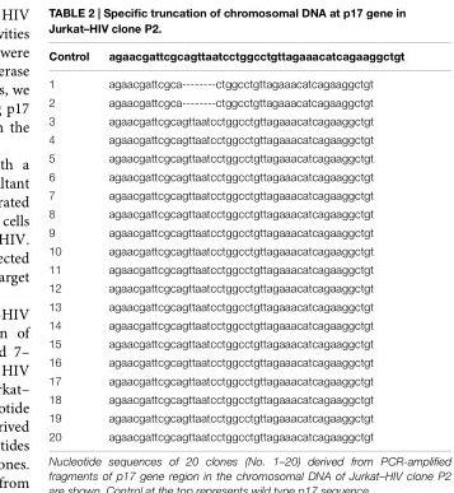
<table><thead><tr><td>Control</td><td>agaacgattcgcagttaatcctggcctgttagaaacatcagaaggctgt</td></tr></thead><tbody><tr><td>1</td><td>agaacgattcgca--------ctggcctgttagaaacatcagaaggctgt</td></tr><tr><td>2</td><td>agaacgattcgca--------ctggcctgttagaaacatcagaaggctgt</td></tr><tr><td>3</td><td>agaacgattcgcagttaatcctggcctgttagaaacatcagaaggctgt</td></tr><tr><td>4</td><td>agaacgattcgcagttaatcctggcctgttagaaacatcagaaggctgt</td></tr><tr><td>5</td><td>agaacgattcgcagttaatcctggcctgttagaaacatcagaaggctgt</td></tr><tr><td>6</td><td>agaacgattcgcagttaatcctggcctgttagaaacatcagaaggctgt</td></tr><tr><td>7</td><td>agaacgattcgcagttaatcctggcctgttagaaacatcagaaggctgt</td></tr><tr><td>8</td><td>agaacgattcgcagttaatcctggcctgttagaaacatcagaaggctgt</td></tr><tr><td>9</td><td>agaacgattcgcagttaatcctggcctgttagaaacatcagaaggctgt</td></tr><tr><td>10</td><td>agaacgattcgcagttaatcctggcctgttagaaacatcagaaggctgt</td></tr><tr><td>11</td><td>agaacgattcgcagttaatcctggcctgttagaaacatcagaaggctgt</td></tr><tr><td>12</td><td>agaacgattcgcagttaatcctggcctgttagaaacatcagaaggctgt</td></tr><tr><td>13</td><td>agaacgattcgcagttaatcctggcctgttagaaacatcagaaggctgt</td></tr><tr><td>14</td><td>agaacgattcgcagttaatcctggcctgttagaaacatcagaaggctgt</td></tr><tr><td>15</td><td>agaacgattcgcagttaatcctggcctgttagaaacatcagaaggctgt</td></tr><tr><td>16</td><td>agaacgattcgcagttaatcctggcctgttagaaacatcagaaggctgt</td></tr><tr><td>17</td><td>agaacgattcgcagttaatcctggcctgttagaaacatcagaaggctgt</td></tr><tr><td>18</td><td>agaacgattcgcagttaatcctggcctgttagaaacatcagaaggctgt</td></tr><tr><td>19</td><td>agaacgattcgcagttaatcctggcctgttagaaacatcagaaggctgt</td></tr><tr><td>20</td><td>agaacgattcgcagttaatcctggcctgttagaaacatcagaaggctgt</td></tr></tbody></table>